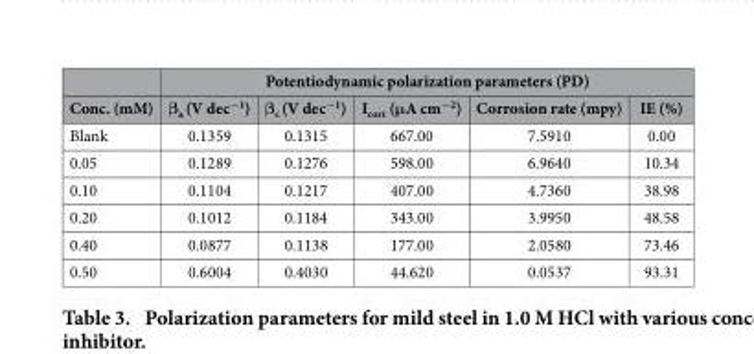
<table><thead><tr><td rowspan="2">Conc. (mM)</td><td colspan="5">Potentiodynamic polarization parameters (PD)</td></tr><tr><td>β<sub>a</sub> (V dec<sup>−1</sup>)</td><td>β<sub>c</sub> (V dec<sup>−1</sup>)</td><td>I<sub>corr</sub> (μA cm<sup>−2</sup>)</td><td>Corrosion rate (mpy)</td><td>IE (%)</td></tr></thead><tbody><tr><td>Blank</td><td>0.1359</td><td>0.1315</td><td>667.00</td><td>7.5910</td><td>0.00</td></tr><tr><td>0.05</td><td>0.1289</td><td>0.1276</td><td>598.00</td><td>6.9640</td><td>10.34</td></tr><tr><td>0.10</td><td>0.1104</td><td>0.1217</td><td>407.00</td><td>4.7360</td><td>38.98</td></tr><tr><td>0.20</td><td>0.1012</td><td>0.1184</td><td>343.00</td><td>3.9950</td><td>48.58</td></tr><tr><td>0.40</td><td>0.0877</td><td>0.1138</td><td>177.00</td><td>2.0580</td><td>73.46</td></tr><tr><td>0.50</td><td>0.6004</td><td>0.4030</td><td>44.620</td><td>0.0537</td><td>93.31</td></tr></tbody></table>